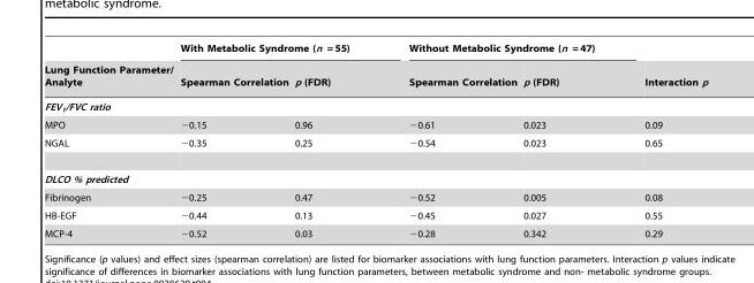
<table><thead><tr><td rowspan="2">Lung Function Parameter/ Analyte</td><td colspan="2">With Metabolic Syndrome (n = 55)</td><td colspan="2">Without Metabolic Syndrome (n = 47)</td><td rowspan="2">Interaction p</td></tr><tr><td>Spearman Correlation</td><td>p (FDR)</td><td>Spearman Correlation</td><td>p (FDR)</td></tr></thead><tbody><tr><td colspan="6">FEV<sub>1</sub>/FVC ratio</td></tr><tr><td>MPO</td><td>−0.15</td><td>0.96</td><td>−0.61</td><td>0.023</td><td>0.09</td></tr><tr><td>NGAL</td><td>−0.35</td><td>0.25</td><td>−0.54</td><td>0.023</td><td>0.65</td></tr><tr><td colspan="6">DLCO % predicted</td></tr><tr><td>Fibrinogen</td><td>−0.25</td><td>0.47</td><td>−0.52</td><td>0.005</td><td>0.08</td></tr><tr><td>HB-EGF</td><td>−0.44</td><td>0.13</td><td>−0.45</td><td>0.027</td><td>0.55</td></tr><tr><td>MCP-4</td><td>−0.52</td><td>0.03</td><td>−0.28</td><td>0.342</td><td>0.29</td></tr></tbody></table>